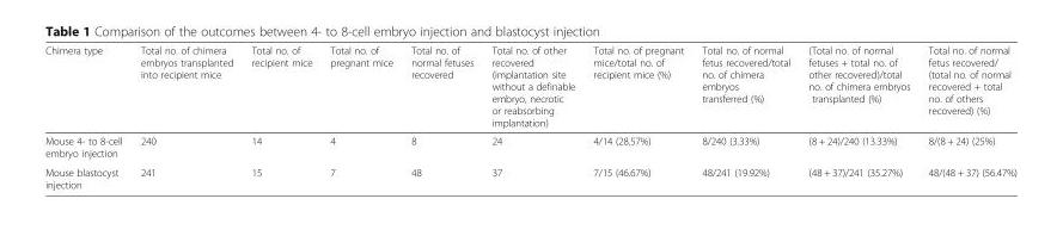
<table><thead><tr><td>Chimera type</td><td>Total no. of chimera embryos transplanted into recipient mice</td><td>Total no. of recipient mice</td><td>Total no. of pregnant mice</td><td>Total no. of normal fetuses recovered</td><td>Total no. of other recovered (implantation site without a definable embryo, necrotic or reabsorbing implantation)</td><td>Total no. of pregnant mice/total no. of recipient mice (%)</td><td>Total no. of normal fetus recovered/total no. of chimera embryos transferred (%)</td><td>(Total no. of normal fetuses + total no. of other recovered)/total no. of chimera embryos transplanted (%)</td><td>Total no. of normal fetus recovered/ (total no. of normal recovered + total no. of others recovered) (%)</td></tr></thead><tbody><tr><td>Mouse 4- to 8-cell embryo injection</td><td>240</td><td>14</td><td>4</td><td>8</td><td>24</td><td>4/14 (28.57%)</td><td>8/240 (3.33%)</td><td>(8 + 24)/240 (13.33%)</td><td>8/(8 + 24) (25%)</td></tr><tr><td>Mouse blastocyst injection</td><td>241</td><td>15</td><td>7</td><td>48</td><td>37</td><td>7/15 (46.67%)</td><td>48/241 (19.92%)</td><td>(48 + 37)/241 (35.27%)</td><td>48/(48 + 37) (56.47%)</td></tr></tbody></table>